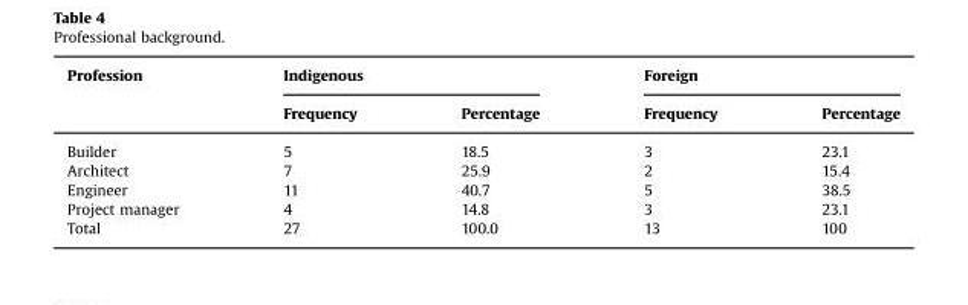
<table><thead><tr><td rowspan="2">Profession</td><td colspan="2">Indigenous</td><td colspan="2">Foreign</td></tr><tr><td>Frequency</td><td>Percentage</td><td>Frequency</td><td>Percentage</td></tr></thead><tbody><tr><td>Builder</td><td>5</td><td>18.5</td><td>3</td><td>23.1</td></tr><tr><td>Architect</td><td>7</td><td>25.9</td><td>2</td><td>15.4</td></tr><tr><td>Engineer</td><td>11</td><td>40.7</td><td>5</td><td>38.5</td></tr><tr><td>Project manager</td><td>4</td><td>14.8</td><td>3</td><td>23.1</td></tr><tr><td>Total</td><td>27</td><td>100.0</td><td>13</td><td>100</td></tr></tbody></table>